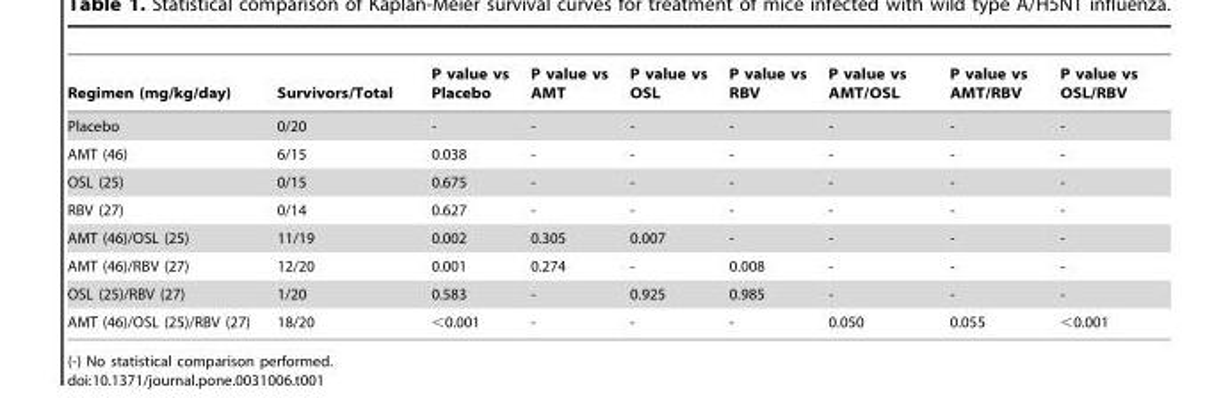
<table><thead><tr><td>Regimen (mg/kg/day)</td><td>Survivors/Total</td><td>P value vs Placebo</td><td>P value vs AMT</td><td>P value vs OSL</td><td>P value vs RBV</td><td>P value vs AMT/OSL</td><td>P value vs AMT/RBV</td><td>P value vs OSL/RBV</td></tr></thead><tbody><tr><td>Placebo</td><td>0/20</td><td>-</td><td>-</td><td>-</td><td>-</td><td>-</td><td>-</td><td>-</td></tr><tr><td>AMT (46)</td><td>6/15</td><td>0.038</td><td>-</td><td>-</td><td>-</td><td>-</td><td>-</td><td>-</td></tr><tr><td>OSL (25)</td><td>0/15</td><td>0.675</td><td>-</td><td>-</td><td>-</td><td>-</td><td>-</td><td>-</td></tr><tr><td>RBV (27)</td><td>0/14</td><td>0.627</td><td>-</td><td>-</td><td>-</td><td>-</td><td>-</td><td>-</td></tr><tr><td>AMT (46)/OSL (25)</td><td>11/19</td><td>0.002</td><td>0.305</td><td>0.007</td><td>-</td><td>-</td><td>-</td><td>-</td></tr><tr><td>AMT (46)/RBV (27)</td><td>12/20</td><td>0.001</td><td>0.274</td><td>-</td><td>0.008</td><td>-</td><td>-</td><td>-</td></tr><tr><td>OSL (25)/RBV (27)</td><td>1/20</td><td>0.583</td><td>-</td><td>0.925</td><td>0.985</td><td>-</td><td>-</td><td>-</td></tr><tr><td>AMT (46)/OSL (25)/RBV (27)</td><td>18/20</td><td>&lt;0.001</td><td>-</td><td>-</td><td>-</td><td>0.050</td><td>0.055</td><td>&lt;0.001</td></tr></tbody></table>